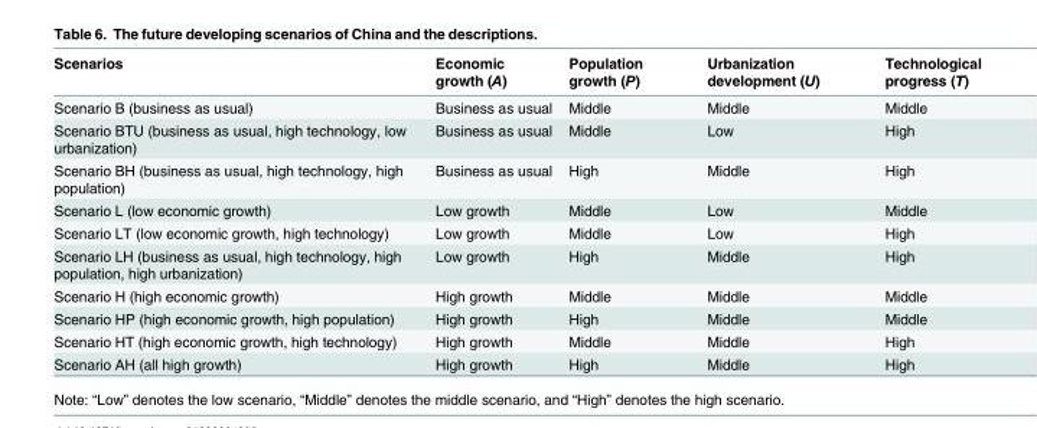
<table><thead><tr><td>Scenarios</td><td>Economic growth (A)</td><td>Population growth (P)</td><td>Urbanization development (U)</td><td>Technological progress (T)</td></tr></thead><tbody><tr><td>Scenario B (business as usual)</td><td>Business as usual</td><td>Middle</td><td>Middle</td><td>Middle</td></tr><tr><td>Scenario BTU (business as usual, high technology, low urbanization)</td><td>Business as usual</td><td>Middle</td><td>Low</td><td>High</td></tr><tr><td>Scenario BH (business as usual, high technology, high population)</td><td>Business as usual</td><td>High</td><td>Middle</td><td>High</td></tr><tr><td>Scenario L (low economic growth)</td><td>Low growth</td><td>Middle</td><td>Low</td><td>Middle</td></tr><tr><td>Scenario LT (low economic growth, high technology)</td><td>Low growth</td><td>Middle</td><td>Low</td><td>High</td></tr><tr><td>Scenario LH (business as usual, high technology, high population, high urbanization)</td><td>Low growth</td><td>High</td><td>Middle</td><td>High</td></tr><tr><td>Scenario H (high economic growth)</td><td>High growth</td><td>Middle</td><td>Middle</td><td>Middle</td></tr><tr><td>Scenario HP (high economic growth, high population)</td><td>High growth</td><td>High</td><td>Middle</td><td>Middle</td></tr><tr><td>Scenario HT (high economic growth, high technology)</td><td>High growth</td><td>Middle</td><td>Middle</td><td>High</td></tr><tr><td>Scenario AH (all high growth)</td><td>High growth</td><td>High</td><td>Middle</td><td>High</td></tr></tbody></table>